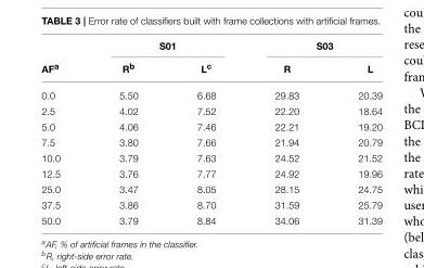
<table><thead><tr><td rowspan="2">AF<sup>a</sup></td><td colspan="2">S01</td><td colspan="2">S03</td></tr><tr><td>R<sup>b</sup></td><td>L<sup>c</sup></td><td>R</td><td>L</td></tr></thead><tbody><tr><td>0.0</td><td>5.50</td><td>6.68</td><td>29.83</td><td>20.39</td></tr><tr><td>2.5</td><td>4.02</td><td>7.52</td><td>22.20</td><td>18.64</td></tr><tr><td>5.0</td><td>4.06</td><td>7.46</td><td>22.21</td><td>19.20</td></tr><tr><td>7.5</td><td>3.80</td><td>7.66</td><td>21.94</td><td>20.79</td></tr><tr><td>10.0</td><td>3.79</td><td>7.63</td><td>24.52</td><td>21.52</td></tr><tr><td>12.5</td><td>3.76</td><td>7.77</td><td>24.92</td><td>19.96</td></tr><tr><td>25.0</td><td>3.47</td><td>8.05</td><td>28.15</td><td>24.75</td></tr><tr><td>37.5</td><td>3.86</td><td>8.70</td><td>31.59</td><td>25.79</td></tr><tr><td>50.0</td><td>3.79</td><td>8.84</td><td>34.06</td><td>31.39</td></tr></tbody></table>